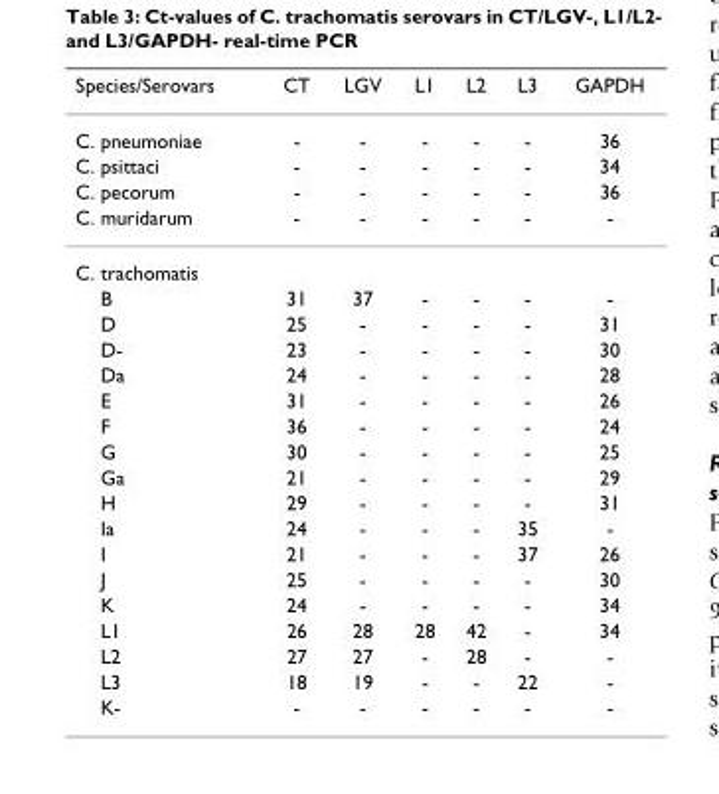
<table><thead><tr><td>Species/Serovars</td><td>CT</td><td>LGV</td><td>L1</td><td>L2</td><td>L3</td><td>GAPDH</td></tr></thead><tbody><tr><td>C. pneumoniae</td><td>-</td><td>-</td><td>-</td><td>-</td><td>-</td><td>36</td></tr><tr><td>C. psittaci</td><td>-</td><td>-</td><td>-</td><td>-</td><td>-</td><td>34</td></tr><tr><td>C. pecorum</td><td>-</td><td>-</td><td>-</td><td>-</td><td>-</td><td>36</td></tr><tr><td>C. muridarum</td><td>-</td><td>-</td><td>-</td><td>-</td><td>-</td><td>-</td></tr><tr><td colspan="7">C. trachomatis</td></tr><tr><td>B</td><td>31</td><td>37</td><td>-</td><td>-</td><td>-</td><td>-</td></tr><tr><td>D</td><td>25</td><td>-</td><td>-</td><td>-</td><td>-</td><td>31</td></tr><tr><td>D-</td><td>23</td><td>-</td><td>-</td><td>-</td><td>-</td><td>30</td></tr><tr><td>Da</td><td>24</td><td>-</td><td>-</td><td>-</td><td>-</td><td>28</td></tr><tr><td>E</td><td>31</td><td>-</td><td>-</td><td>-</td><td>-</td><td>26</td></tr><tr><td>F</td><td>36</td><td>-</td><td>-</td><td>-</td><td>-</td><td>24</td></tr><tr><td>G</td><td>30</td><td>-</td><td>-</td><td>-</td><td>-</td><td>25</td></tr><tr><td>Ga</td><td>21</td><td>-</td><td>-</td><td>-</td><td>-</td><td>29</td></tr><tr><td>H</td><td>29</td><td>-</td><td>-</td><td>-</td><td>-</td><td>31</td></tr><tr><td>Ia</td><td>24</td><td>-</td><td>-</td><td>-</td><td>35</td><td>-</td></tr><tr><td>I</td><td>21</td><td>-</td><td>-</td><td>-</td><td>37</td><td>26</td></tr><tr><td>J</td><td>25</td><td>-</td><td>-</td><td>-</td><td>-</td><td>30</td></tr><tr><td>K</td><td>24</td><td>-</td><td>-</td><td>-</td><td>-</td><td>34</td></tr><tr><td>L1</td><td>26</td><td>28</td><td>28</td><td>42</td><td>-</td><td>34</td></tr><tr><td>L2</td><td>27</td><td>27</td><td>-</td><td>28</td><td>-</td><td>-</td></tr><tr><td>L3</td><td>18</td><td>19</td><td>-</td><td>-</td><td>22</td><td>-</td></tr><tr><td>K-</td><td>-</td><td>-</td><td>-</td><td>-</td><td>-</td><td>-</td></tr></tbody></table>